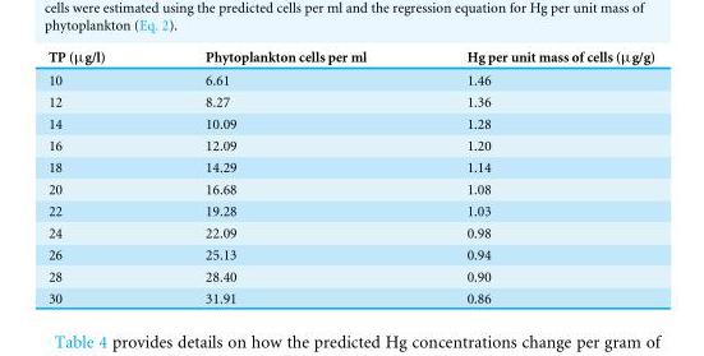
<table><thead><tr><td>TP (µg/l)</td><td>Phytoplankton cells per ml</td><td>Hg per unit mass of cells (µg/g)</td></tr></thead><tbody><tr><td>10</td><td>6.61</td><td>1.46</td></tr><tr><td>12</td><td>8.27</td><td>1.36</td></tr><tr><td>14</td><td>10.09</td><td>1.28</td></tr><tr><td>16</td><td>12.09</td><td>1.20</td></tr><tr><td>18</td><td>14.29</td><td>1.14</td></tr><tr><td>20</td><td>16.68</td><td>1.08</td></tr><tr><td>22</td><td>19.28</td><td>1.03</td></tr><tr><td>24</td><td>22.09</td><td>0.98</td></tr><tr><td>26</td><td>25.13</td><td>0.94</td></tr><tr><td>28</td><td>28.40</td><td>0.90</td></tr><tr><td>30</td><td>31.91</td><td>0.86</td></tr></tbody></table>